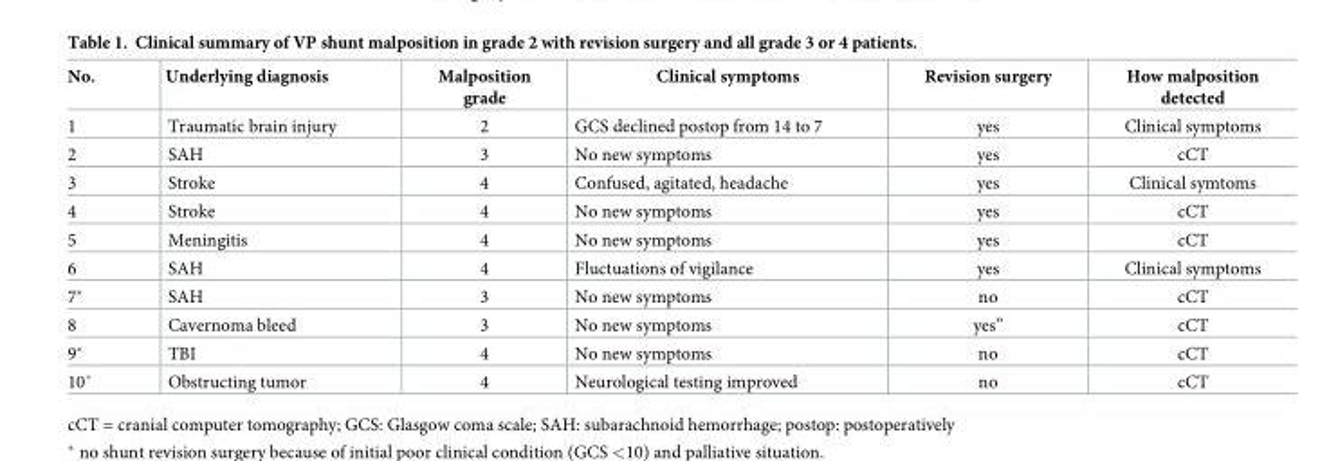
<table><thead><tr><td>No.</td><td>Underlying diagnosis</td><td>Malposition grade</td><td>Clinical symptoms</td><td>Revision surgery</td><td>How malposition detected</td></tr></thead><tbody><tr><td>1</td><td>Traumatic brain injury</td><td>2</td><td>GCS declined postop from 14 to 7</td><td>yes</td><td>Clinical symptoms</td></tr><tr><td>2</td><td>SAH</td><td>3</td><td>No new symptoms</td><td>yes</td><td>cCT</td></tr><tr><td>3</td><td>Stroke</td><td>4</td><td>Confused, agitated, headache</td><td>yes</td><td>Clinical symtoms</td></tr><tr><td>4</td><td>Stroke</td><td>4</td><td>No new symptoms</td><td>yes</td><td>cCT</td></tr><tr><td>5</td><td>Meningitis</td><td>4</td><td>No new symptoms</td><td>yes</td><td>cCT</td></tr><tr><td>6</td><td>SAH</td><td>4</td><td>Fluctuations of vigilance</td><td>yes</td><td>Clinical symptoms</td></tr><tr><td>7*</td><td>SAH</td><td>3</td><td>No new symptoms</td><td>no</td><td>cCT</td></tr><tr><td>8</td><td>Cavernoma bleed</td><td>3</td><td>No new symptoms</td><td>yes”</td><td>cCT</td></tr><tr><td>9*</td><td>TBI</td><td>4</td><td>No new symptoms</td><td>no</td><td>cCT</td></tr><tr><td>10˚</td><td>Obstructing tumor</td><td>4</td><td>Neurological testing improved</td><td>no</td><td>cCT</td></tr></tbody></table>